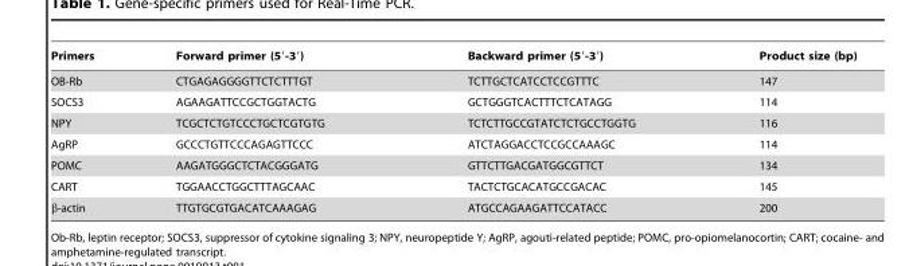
<table><thead><tr><td>Primers</td><td>Forward primer (5′-3′)</td><td>Backward primer (5′-3′)</td><td>Product size (bp)</td></tr></thead><tbody><tr><td>OB-Rb</td><td>CTGAGAGGGGTTCTCTTTGT</td><td>TCTTGCTCATCCTCCGTTTC</td><td>147</td></tr><tr><td>SOCS3</td><td>AGAAGATTCCGCTGGTACTG</td><td>GCTGGGTCACTTTCTCATAGG</td><td>114</td></tr><tr><td>NPY</td><td>TCGCTCTGTCCCTGCTCGTGTG</td><td>TCTCTTGCCGTATCTCTGCCTGGTG</td><td>116</td></tr><tr><td>AgRP</td><td>GCCCTGTTCCCAGAGTTCCC</td><td>ATCTAGGACCTCCGCCAAAGC</td><td>114</td></tr><tr><td>POMC</td><td>AAGATGGGCTCTACGGGATG</td><td>GTTCTTGACGATGGCGTTCT</td><td>134</td></tr><tr><td>CART</td><td>TGGAACCTGGCTTTAGCAAC</td><td>TACTCTGCACATGCCGACAC</td><td>145</td></tr><tr><td>β-actin</td><td>TTGTGCGTGACATCAAAGAG</td><td>ATGCCAGAAGATTCCATACC</td><td>200</td></tr></tbody></table>